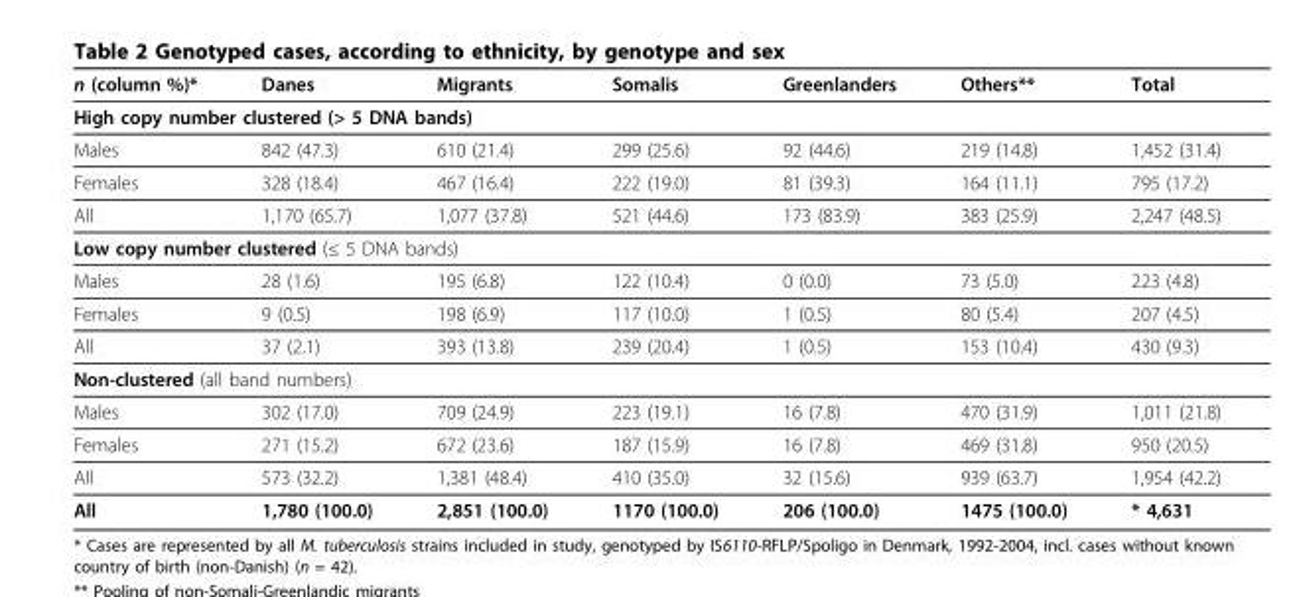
<table><thead><tr><td>n (column %)*</td><td>Danes</td><td>Migrants</td><td>Somalis</td><td>Greenlanders</td><td>Others**</td><td>Total</td></tr></thead><tbody><tr><td colspan="7">High copy number clustered (&gt; 5 DNA bands)</td></tr><tr><td>Males</td><td>842 (47.3)</td><td>610 (21.4)</td><td>299 (25.6)</td><td>92 (44.6)</td><td>219 (14.8)</td><td>1,452 (31.4)</td></tr><tr><td>Females</td><td>328 (18.4)</td><td>467 (16.4)</td><td>222 (19.0)</td><td>81 (39.3)</td><td>164 (11.1)</td><td>795 (17.2)</td></tr><tr><td>All</td><td>1,170 (65.7)</td><td>1,077 (37.8)</td><td>521 (44.6)</td><td>173 (83.9)</td><td>383 (25.9)</td><td>2,247 (48.5)</td></tr><tr><td colspan="7">Low copy number clustered (≤ 5 DNA bands)</td></tr><tr><td>Males</td><td>28 (1.6)</td><td>195 (6.8)</td><td>122 (10.4)</td><td>0 (0.0)</td><td>73 (5.0)</td><td>223 (4.8)</td></tr><tr><td>Females</td><td>9 (0.5)</td><td>198 (6.9)</td><td>117 (10.0)</td><td>1 (0.5)</td><td>80 (5.4)</td><td>207 (4.5)</td></tr><tr><td>All</td><td>37 (2.1)</td><td>393 (13.8)</td><td>239 (20.4)</td><td>1 (0.5)</td><td>153 (10.4)</td><td>430 (9.3)</td></tr><tr><td colspan="7">Non-clustered (all band numbers)</td></tr><tr><td>Males</td><td>302 (17.0)</td><td>709 (24.9)</td><td>223 (19.1)</td><td>16 (7.8)</td><td>470 (31.9)</td><td>1,011 (21.8)</td></tr><tr><td>Females</td><td>271 (15.2)</td><td>672 (23.6)</td><td>187 (15.9)</td><td>16 (7.8)</td><td>469 (31.8)</td><td>950 (20.5)</td></tr><tr><td>All</td><td>573 (32.2)</td><td>1,381 (48.4)</td><td>410 (35.0)</td><td>32 (15.6)</td><td>939 (63.7)</td><td>1,954 (42.2)</td></tr><tr><td>All</td><td>1,780 (100.0)</td><td>2,851 (100.0)</td><td>1170 (100.0)</td><td>206 (100.0)</td><td>1475 (100.0)</td><td>* 4,631</td></tr></tbody></table>